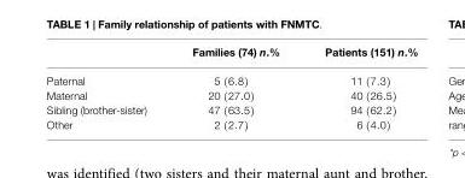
<table><thead><tr><td></td><td>Families (74) n.%</td><td>Patients (151) n.%</td></tr></thead><tbody><tr><td>Paternal</td><td>5 (6.8)</td><td>11 (7.3)</td></tr><tr><td>Maternal</td><td>20 (27.0)</td><td>40 (26.5)</td></tr><tr><td>Sibling (brother-sister)</td><td>47 (63.5)</td><td>94 (62.2)</td></tr><tr><td>Other</td><td>2 (2.7)</td><td>6 (4.0)</td></tr></tbody></table>